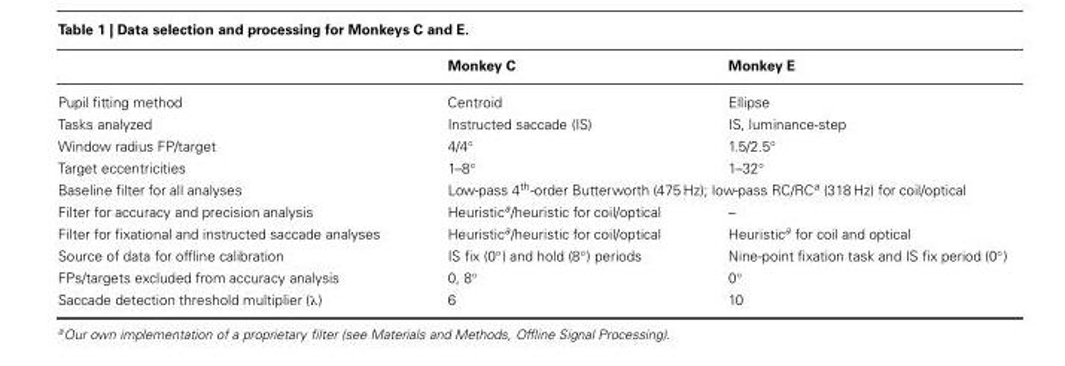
<table><thead><tr><td></td><td>Monkey C</td><td>Monkey E</td></tr></thead><tbody><tr><td>Pupil fitting method</td><td>Centroid</td><td>Ellipse</td></tr><tr><td>Tasks analyzed</td><td>Instructed saccade (IS)</td><td>IS, luminance-step</td></tr><tr><td>Window radius FP/target</td><td>4/4◦</td><td>1.5/2.5◦</td></tr><tr><td>Target eccentricities</td><td>1–8◦</td><td>1–32◦</td></tr><tr><td>Baseline filter for all analyses</td><td colspan="2">Low-pass 4<sup>th</sup>-order Butterworth (475 Hz); low-pass RC/RC<sup>a</sup> (318 Hz) for coil/optical</td></tr><tr><td>Filter for accuracy and precision analysis</td><td>Heuristic<sup>a</sup>/heuristic for coil/optical</td><td>–</td></tr><tr><td>Filter for fixational and instructed saccade analyses</td><td>Heuristic<sup>a</sup>/heuristic for coil/optical</td><td>Heuristic<sup>a</sup> for coil and optical</td></tr><tr><td>Source of data for offline calibration</td><td>IS fix (0◦) and hold (8◦) periods</td><td>Nine-point fixation task and IS fix period (0◦)</td></tr><tr><td>FPs/targets excluded from accuracy analysis</td><td>0, 8◦</td><td>0◦</td></tr><tr><td>Saccade detection threshold multiplier (λ)</td><td>6</td><td>10</td></tr></tbody></table>